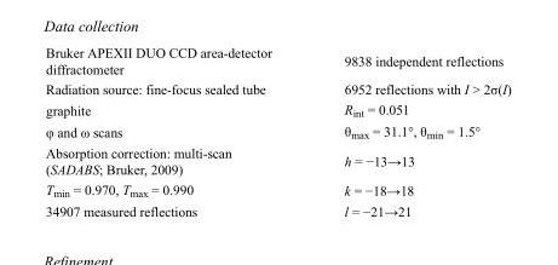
<table><tbody><tr><td>Bruker APEXII DUO CCD area-detector diffractometer</td><td>9838 independent reflections</td></tr><tr><td>Radiation source: fine-focus sealed tube</td><td>6952 reflections with I &gt; 2σ(I)</td></tr><tr><td>graphite</td><td>R<sub>int</sub> = 0.051</td></tr><tr><td>φ and ω scans</td><td>θ<sub>max</sub> = 31.1°, θ<sub>min</sub> = 1.5°</td></tr><tr><td>Absorption correction: multi-scan (SADABS; Bruker, 2009)</td><td>h = −13→13</td></tr><tr><td>T<sub>min</sub> = 0.970, T<sub>max</sub> = 0.990</td><td>k = −18→18</td></tr><tr><td>34907 measured reflections</td><td>l = −21→21</td></tr></tbody></table>